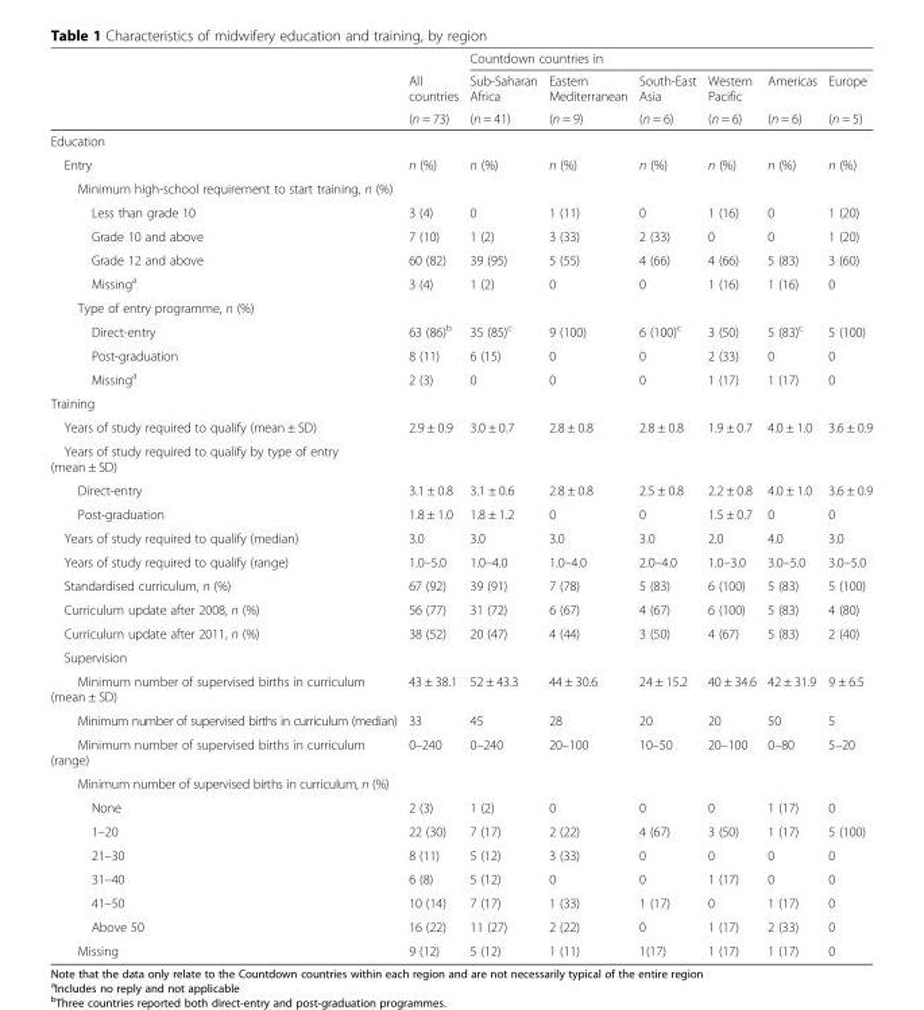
<table><thead><tr><td rowspan="3"></td><td rowspan="3">All countries (n = 73)</td><td colspan="6">Countdown countries in</td></tr><tr><td rowspan="2">Sub-Saharan Africa (n = 41)</td><td rowspan="2">Eastern Mediterranean (n = 9)</td><td rowspan="2">South-East Asia (n = 6)</td><td rowspan="2">Western Pacific (n = 6)</td><td rowspan="2">Americas (n = 6)</td><td rowspan="2">Europe (n = 5)</td></tr><tr></tr></thead><tbody><tr><td colspan="8">Education</td></tr><tr><td>Entry</td><td>n (%)</td><td>n (%)</td><td>n (%)</td><td>n (%)</td><td>n (%)</td><td>n (%)</td><td>n (%)</td></tr><tr><td colspan="8">Minimum high-school requirement to start training, n (%)</td></tr><tr><td>Less than grade 10</td><td>3 (4)</td><td>0</td><td>1 (11)</td><td>0</td><td>1 (16)</td><td>0</td><td>1 (20)</td></tr><tr><td>Grade 10 and above</td><td>7 (10)</td><td>1 (2)</td><td>3 (33)</td><td>2 (33)</td><td>0</td><td>0</td><td>1 (20)</td></tr><tr><td>Grade 12 and above</td><td>60 (82)</td><td>39 (95)</td><td>5 (55)</td><td>4 (66)</td><td>4 (66)</td><td>5 (83)</td><td>3 (60)</td></tr><tr><td>Missing<sup>a</sup></td><td>3 (4)</td><td>1 (2)</td><td>0</td><td>0</td><td>1 (16)</td><td>1 (16)</td><td>0</td></tr><tr><td colspan="8">Type of entry programme, n (%)</td></tr><tr><td>Direct-entry</td><td>63 (86)<sup>b</sup></td><td>35 (85)<sup>c</sup></td><td>9 (100)</td><td>6 (100)<sup>c</sup></td><td>3 (50)</td><td>5 (83)<sup>c</sup></td><td>5 (100)</td></tr><tr><td>Post-graduation</td><td>8 (11)</td><td>6 (15)</td><td>0</td><td>0</td><td>2 (33)</td><td>0</td><td>0</td></tr><tr><td>Missing<sup>a</sup></td><td>2 (3)</td><td>0</td><td>0</td><td>0</td><td>1 (17)</td><td>1 (17)</td><td>0</td></tr><tr><td colspan="8">Training</td></tr><tr><td>Years of study required to qualify (mean ± SD)</td><td>2.9 ± 0.9</td><td>3.0 ± 0.7</td><td>2.8 ± 0.8</td><td>2.8 ± 0.8</td><td>1.9 ± 0.7</td><td>4.0 ± 1.0</td><td>3.6 ± 0.9</td></tr><tr><td colspan="8">Years of study required to qualify by type of entry (mean ± SD)</td></tr><tr><td>Direct-entry</td><td>3.1 ± 0.8</td><td>3.1 ± 0.6</td><td>2.8 ± 0.8</td><td>2.5 ± 0.8</td><td>2.2 ± 0.8</td><td>4.0 ± 1.0</td><td>3.6 ± 0.9</td></tr><tr><td>Post-graduation</td><td>1.8 ± 1.0</td><td>1.8 ± 1.2</td><td>0</td><td>0</td><td>1.5 ± 0.7</td><td>0</td><td>0</td></tr><tr><td>Years of study required to qualify (median)</td><td>3.0</td><td>3.0</td><td>3.0</td><td>3.0</td><td>2.0</td><td>4.0</td><td>3.0</td></tr><tr><td>Years of study required to qualify (range)</td><td>1.0–5.0</td><td>1.0–4.0</td><td>1.0–4.0</td><td>2.0–4.0</td><td>1.0–3.0</td><td>3.0–5.0</td><td>3.0–5.0</td></tr><tr><td>Standardised curriculum, n (%)</td><td>67 (92)</td><td>39 (91)</td><td>7 (78)</td><td>5 (83)</td><td>6 (100)</td><td>5 (83)</td><td>5 (100)</td></tr><tr><td>Curriculum update after 2008, n (%)</td><td>56 (77)</td><td>31 (72)</td><td>6 (67)</td><td>4 (67)</td><td>6 (100)</td><td>5 (83)</td><td>4 (80)</td></tr><tr><td>Curriculum update after 2011, n (%)</td><td>38 (52)</td><td>20 (47)</td><td>4 (44)</td><td>3 (50)</td><td>4 (67)</td><td>5 (83)</td><td>2 (40)</td></tr><tr><td colspan="8">Supervision</td></tr><tr><td>Minimum number of supervised births in curriculum (mean ± SD)</td><td>43 ± 38.1</td><td>52 ± 43.3</td><td>44 ± 30.6</td><td>24 ± 15.2</td><td>40 ± 34.6</td><td>42 ± 31.9</td><td>9 ± 6.5</td></tr><tr><td>Minimum number of supervised births in curriculum (median)</td><td>33</td><td>45</td><td>28</td><td>20</td><td>20</td><td>50</td><td>5</td></tr><tr><td>Minimum number of supervised births in curriculum (range)</td><td>0–240</td><td>0–240</td><td>20–100</td><td>10–50</td><td>20–100</td><td>0–80</td><td>5–20</td></tr><tr><td colspan="8">Minimum number of supervised births in curriculum, n (%)</td></tr><tr><td>None</td><td>2 (3)</td><td>1 (2)</td><td>0</td><td>0</td><td>0</td><td>1 (17)</td><td>0</td></tr><tr><td>1–20</td><td>22 (30)</td><td>7 (17)</td><td>2 (22)</td><td>4 (67)</td><td>3 (50)</td><td>1 (17)</td><td>5 (100)</td></tr><tr><td>21–30</td><td>8 (11)</td><td>5 (12)</td><td>3 (33)</td><td>0</td><td>0</td><td>0</td><td>0</td></tr><tr><td>31–40</td><td>6 (8)</td><td>5 (12)</td><td>0</td><td>0</td><td>1 (17)</td><td>0</td><td>0</td></tr><tr><td>41–50</td><td>10 (14)</td><td>7 (17)</td><td>1 (33)</td><td>1 (17)</td><td>0</td><td>1 (17)</td><td>0</td></tr><tr><td>Above 50</td><td>16 (22)</td><td>11 (27)</td><td>2 (22)</td><td>0</td><td>1 (17)</td><td>2 (33)</td><td>0</td></tr><tr><td>Missing</td><td>9 (12)</td><td>5 (12)</td><td>1 (11)</td><td>1(17)</td><td>1 (17)</td><td>1 (17)</td><td>0</td></tr></tbody></table>